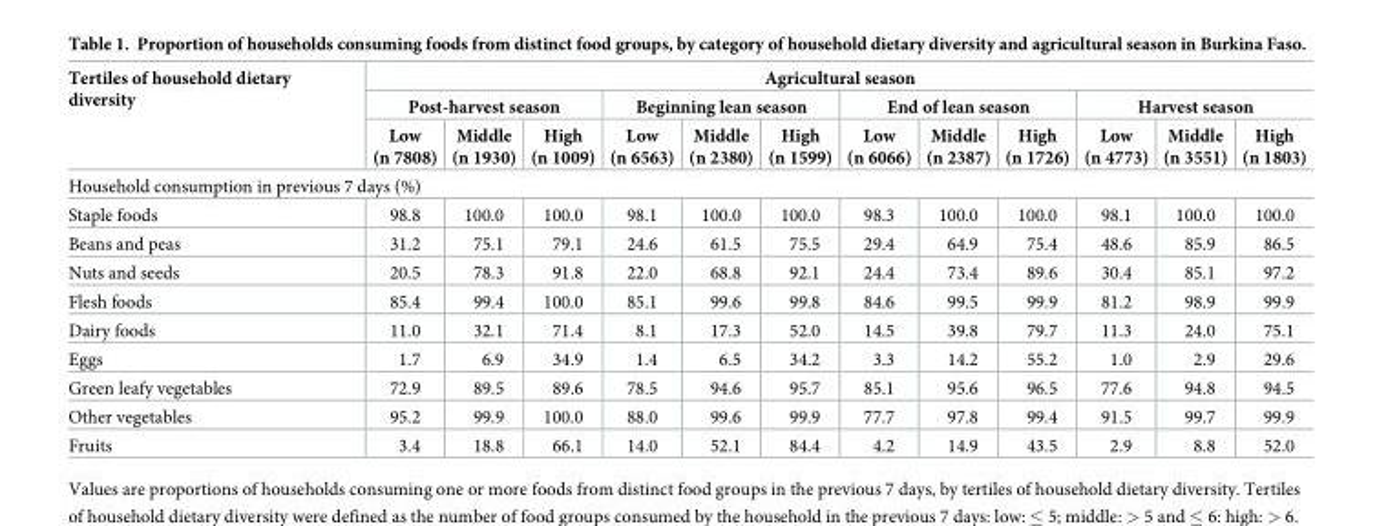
<table><thead><tr><td rowspan="3">Tertiles of household dietary diversity</td><td colspan="12">Agricultural season</td></tr><tr><td colspan="3">Post-harvest season</td><td colspan="3">Beginning lean season</td><td colspan="3">End of lean season</td><td colspan="3">Harvest season</td></tr><tr><td>Low (n 7808)</td><td>Middle (n 1930)</td><td>High (n 1009)</td><td>Low (n 6563)</td><td>Middle (n 2380)</td><td>High (n 1599)</td><td>Low (n 6066)</td><td>Middle (n 2387)</td><td>High (n 1726)</td><td>Low (n 4773)</td><td>Middle (n 3551)</td><td>High (n 1803)</td></tr></thead><tbody><tr><td colspan="13">Household consumption in previous 7 days (%)</td></tr><tr><td>Staple foods</td><td>98.8</td><td>100.0</td><td>100.0</td><td>98.1</td><td>100.0</td><td>100.0</td><td>98.3</td><td>100.0</td><td>100.0</td><td>98.1</td><td>100.0</td><td>100.0</td></tr><tr><td>Beans and peas</td><td>31.2</td><td>75.1</td><td>79.1</td><td>24.6</td><td>61.5</td><td>75.5</td><td>29.4</td><td>64.9</td><td>75.4</td><td>48.6</td><td>85.9</td><td>86.5</td></tr><tr><td>Nuts and seeds</td><td>20.5</td><td>78.3</td><td>91.8</td><td>22.0</td><td>68.8</td><td>92.1</td><td>24.4</td><td>73.4</td><td>89.6</td><td>30.4</td><td>85.1</td><td>97.2</td></tr><tr><td>Flesh foods</td><td>85.4</td><td>99.4</td><td>100.0</td><td>85.1</td><td>99.6</td><td>99.8</td><td>84.6</td><td>99.5</td><td>99.9</td><td>81.2</td><td>98.9</td><td>99.9</td></tr><tr><td>Dairy foods</td><td>11.0</td><td>32.1</td><td>71.4</td><td>8.1</td><td>17.3</td><td>52.0</td><td>14.5</td><td>39.8</td><td>79.7</td><td>11.3</td><td>24.0</td><td>75.1</td></tr><tr><td>Eggs</td><td>1.7</td><td>6.9</td><td>34.9</td><td>1.4</td><td>6.5</td><td>34.2</td><td>3.3</td><td>14.2</td><td>55.2</td><td>1.0</td><td>2.9</td><td>29.6</td></tr><tr><td>Green leafy vegetables</td><td>72.9</td><td>89.5</td><td>89.6</td><td>78.5</td><td>94.6</td><td>95.7</td><td>85.1</td><td>95.6</td><td>96.5</td><td>77.6</td><td>94.8</td><td>94.5</td></tr><tr><td>Other vegetables</td><td>95.2</td><td>99.9</td><td>100.0</td><td>88.0</td><td>99.6</td><td>99.9</td><td>77.7</td><td>97.8</td><td>99.4</td><td>91.5</td><td>99.7</td><td>99.9</td></tr><tr><td>Fruits</td><td>3.4</td><td>18.8</td><td>66.1</td><td>14.0</td><td>52.1</td><td>84.4</td><td>4.2</td><td>14.9</td><td>43.5</td><td>2.9</td><td>8.8</td><td>52.0</td></tr></tbody></table>